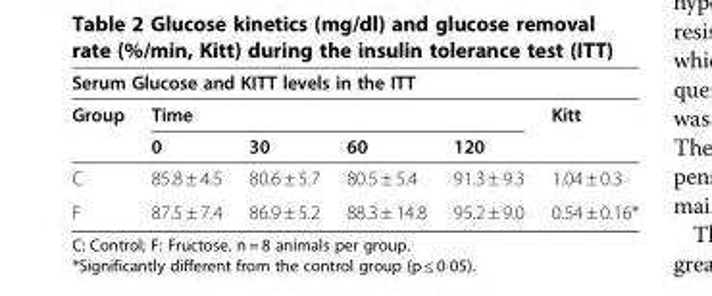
<table><thead><tr><td colspan="6">Serum Glucose and KITT levels in the ITT</td></tr><tr><td rowspan="2">Group</td><td colspan="4">Time</td><td rowspan="2">Kitt</td></tr><tr><td>0</td><td>30</td><td>60</td><td>120</td></tr></thead><tbody><tr><td>C</td><td>85.8 ± 4.5</td><td>80.6 ± 5.7</td><td>80.5 ± 5.4</td><td>91.3 ± 9.3</td><td>1.04 ± 0.3</td></tr><tr><td>F</td><td>87.5 ± 7.4</td><td>86.9 ± 5.2</td><td>88.3 ± 14.8</td><td>95.2 ± 9.0</td><td>0.54 ± 0.16*</td></tr></tbody></table>